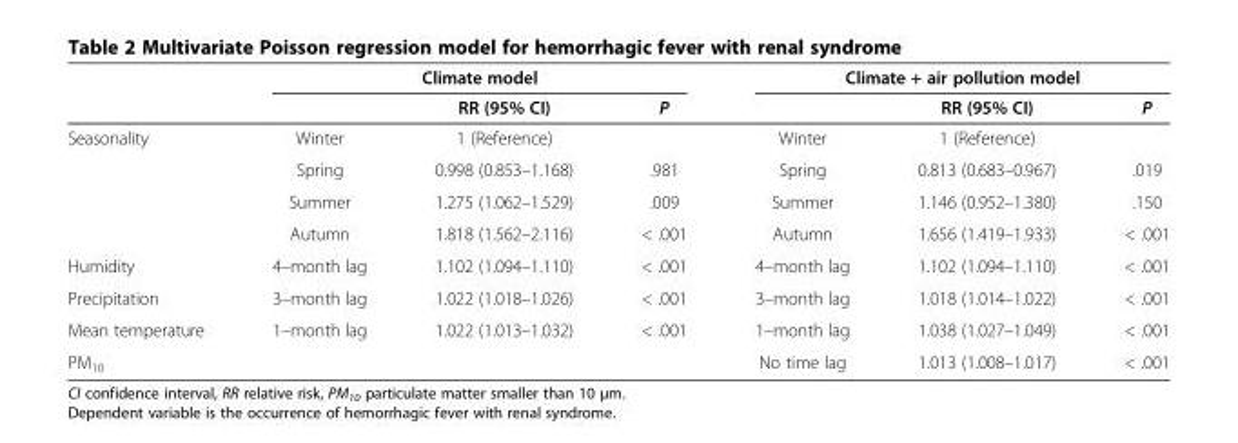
<table><thead><tr><td rowspan="2"></td><td colspan="3">Climate model</td><td colspan="3">Climate + air pollution model</td></tr><tr><td></td><td>RR (95% CI)</td><td>P</td><td></td><td>RR (95% CI)</td><td>P</td></tr></thead><tbody><tr><td rowspan="4">Seasonality</td><td>Winter</td><td>1 (Reference)</td><td></td><td>Winter</td><td>1 (Reference)</td><td></td></tr><tr><td>Spring</td><td>0.998 (0.853–1.168)</td><td>.981</td><td>Spring</td><td>0.813 (0.683–0.967)</td><td>.019</td></tr><tr><td>Summer</td><td>1.275 (1.062–1.529)</td><td>.009</td><td>Summer</td><td>1.146 (0.952–1.380)</td><td>.150</td></tr><tr><td>Autumn</td><td>1.818 (1.562–2.116)</td><td>&lt; .001</td><td>Autumn</td><td>1.656 (1.419–1.933)</td><td>&lt; .001</td></tr><tr><td>Humidity</td><td>4–month lag</td><td>1.102 (1.094–1.110)</td><td>&lt; .001</td><td>4–month lag</td><td>1.102 (1.094–1.110)</td><td>&lt; .001</td></tr><tr><td>Precipitation</td><td>3–month lag</td><td>1.022 (1.018–1.026)</td><td>&lt; .001</td><td>3–month lag</td><td>1.018 (1.014–1.022)</td><td>&lt; .001</td></tr><tr><td>Mean temperature</td><td>1–month lag</td><td>1.022 (1.013–1.032)</td><td>&lt; .001</td><td>1–month lag</td><td>1.038 (1.027–1.049)</td><td>&lt; .001</td></tr><tr><td>PM<sub>10</sub></td><td></td><td></td><td></td><td>No time lag</td><td>1.013 (1.008–1.017)</td><td>&lt; .001</td></tr></tbody></table>